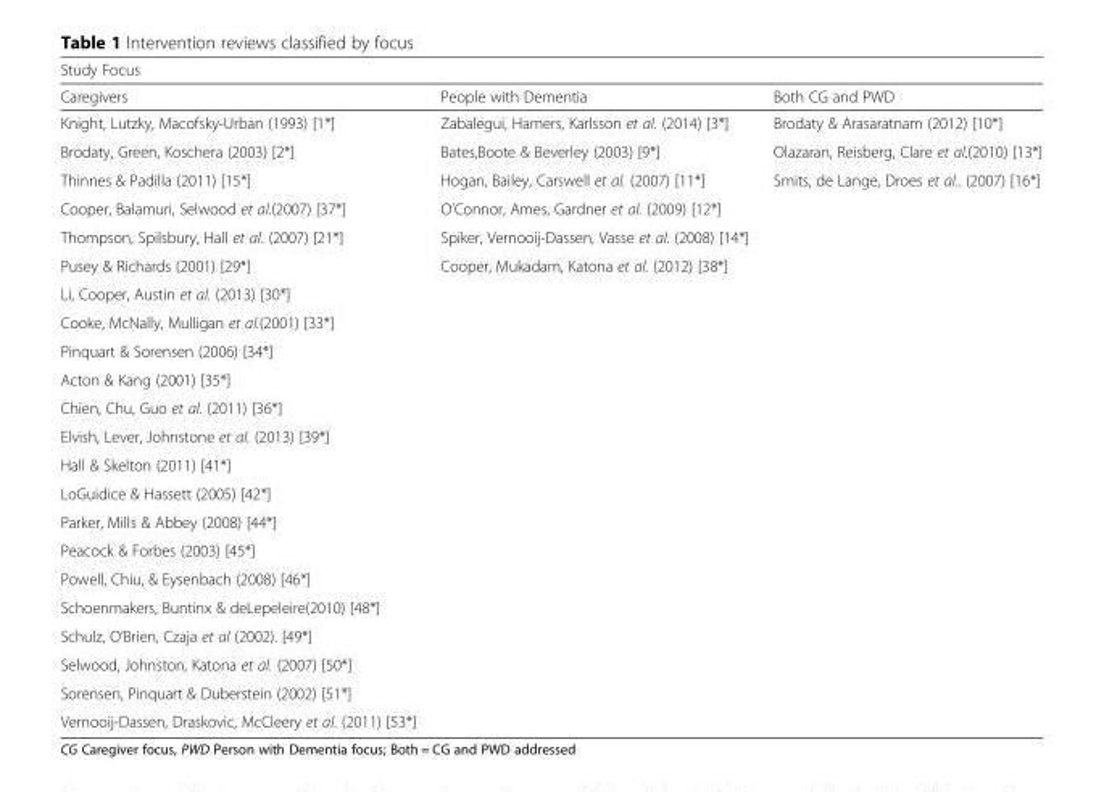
<table><thead><tr><td colspan="3">Study Focus</td></tr><tr><td>Caregivers</td><td>People with Dementia</td><td>Both CG and PWD</td></tr></thead><tbody><tr><td>Knight, Lutzky, Macofsky-Urban (1993) [1*]</td><td>Zabalegui, Hamers, Karlsson et al. (2014) [3*]</td><td>Brodaty &amp; Arasaratnam (2012) [10*]</td></tr><tr><td>Brodaty, Green, Koschera (2003) [2*]</td><td>Bates,Boote &amp; Beverley (2003) [9*]</td><td>Olazaran, Reisberg, Clare et al.(2010) [13*]</td></tr><tr><td>Thinnes &amp; Padilla (2011) [15*]</td><td>Hogan, Bailey, Carswell et al. (2007) [11*]</td><td>Smits, de Lange, Droes et al.. (2007) [16*]</td></tr><tr><td>Cooper, Balamuri, Selwood et al.(2007) [37*]</td><td>O’Connor, Ames, Gardner et al. (2009) [12*]</td><td></td></tr><tr><td>Thompson, Spilsbury, Hall et al. (2007) [21*]</td><td>Spiker, Vernooij-Dassen, Vasse et al. (2008) [14*]</td><td></td></tr><tr><td>Pusey &amp; Richards (2001) [29*]</td><td>Cooper, Mukadam, Katona et al. (2012) [38*]</td><td></td></tr><tr><td colspan="3">Li, Cooper, Austin et al. (2013) [30*]</td></tr><tr><td colspan="3">Cooke, McNally, Mulligan et al.(2001) [33*]</td></tr><tr><td colspan="3">Pinquart &amp; Sorensen (2006) [34*]</td></tr><tr><td colspan="3">Acton &amp; Kang (2001) [35*]</td></tr><tr><td colspan="3">Chien, Chu, Guo et al. (2011) [36*]</td></tr><tr><td colspan="3">Elvish, Lever, Johnstone et al. (2013) [39*]</td></tr><tr><td colspan="3">Hall &amp; Skelton (2011) [41*]</td></tr><tr><td colspan="3">LoGuidice &amp; Hassett (2005) [42*]</td></tr><tr><td colspan="3">Parker, Mills &amp; Abbey (2008) [44*]</td></tr><tr><td colspan="3">Peacock &amp; Forbes (2003) [45*]</td></tr><tr><td colspan="3">Powell, Chiu, &amp; Eysenbach (2008) [46*]</td></tr><tr><td colspan="3">Schoenmakers, Buntinx &amp; deLepeleire(2010) [48*]</td></tr><tr><td colspan="3">Schulz, O’Brien, Czaja et al (2002). [49*]</td></tr><tr><td colspan="3">Selwood, Johnston, Katona et al. (2007) [50*]</td></tr><tr><td colspan="3">Sorensen, Pinquart &amp; Duberstein (2002) [51*]</td></tr><tr><td>Vernooij-Dassen, Draskovic, McCleery et al. (2011) [53*]</td><td></td><td></td></tr></tbody></table>